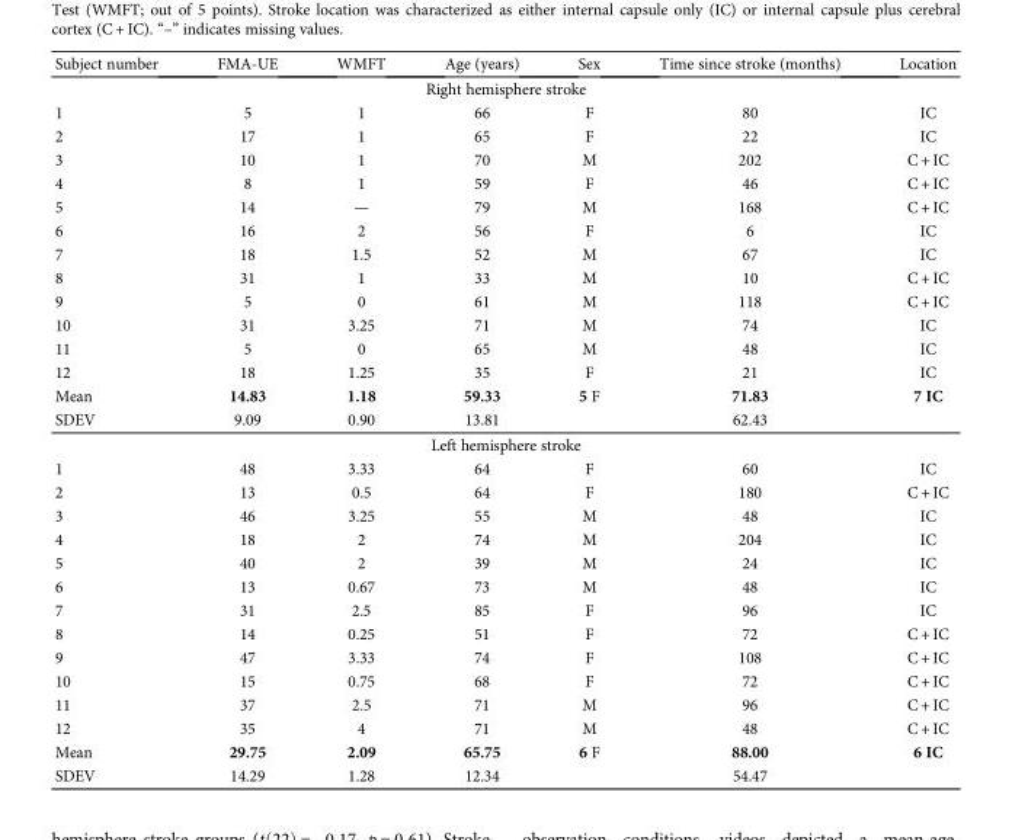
<table><thead><tr><td>Subject number</td><td>FMA-UE</td><td>WMFT</td><td>Age (years)</td><td>Sex</td><td>Time since stroke (months)</td><td>Location</td></tr></thead><tbody><tr><td colspan="7">Right hemisphere stroke</td></tr><tr><td>1</td><td>5</td><td>1</td><td>66</td><td>F</td><td>80</td><td>IC</td></tr><tr><td>2</td><td>17</td><td>1</td><td>65</td><td>F</td><td>22</td><td>IC</td></tr><tr><td>3</td><td>10</td><td>1</td><td>70</td><td>M</td><td>202</td><td>C + IC</td></tr><tr><td>4</td><td>8</td><td>1</td><td>59</td><td>F</td><td>46</td><td>C + IC</td></tr><tr><td>5</td><td>14</td><td>—</td><td>79</td><td>M</td><td>168</td><td>C + IC</td></tr><tr><td>6</td><td>16</td><td>2</td><td>56</td><td>F</td><td>6</td><td>IC</td></tr><tr><td>7</td><td>18</td><td>1.5</td><td>52</td><td>M</td><td>67</td><td>IC</td></tr><tr><td>8</td><td>31</td><td>1</td><td>33</td><td>M</td><td>10</td><td>C + IC</td></tr><tr><td>9</td><td>5</td><td>0</td><td>61</td><td>M</td><td>118</td><td>C + IC</td></tr><tr><td>10</td><td>31</td><td>3.25</td><td>71</td><td>M</td><td>74</td><td>IC</td></tr><tr><td>11</td><td>5</td><td>0</td><td>65</td><td>M</td><td>48</td><td>IC</td></tr><tr><td>12</td><td>18</td><td>1.25</td><td>35</td><td>F</td><td>21</td><td>IC</td></tr><tr><td>Mean</td><td>14.83</td><td>1.18</td><td>59.33</td><td>5 F</td><td>71.83</td><td>7 IC</td></tr><tr><td>SDEV</td><td>9.09</td><td>0.90</td><td>13.81</td><td></td><td>62.43</td><td></td></tr><tr><td colspan="7">Left hemisphere stroke</td></tr><tr><td>1</td><td>48</td><td>3.33</td><td>64</td><td>F</td><td>60</td><td>IC</td></tr><tr><td>2</td><td>13</td><td>0.5</td><td>64</td><td>F</td><td>180</td><td>C + IC</td></tr><tr><td>3</td><td>46</td><td>3.25</td><td>55</td><td>M</td><td>48</td><td>IC</td></tr><tr><td>4</td><td>18</td><td>2</td><td>74</td><td>M</td><td>204</td><td>IC</td></tr><tr><td>5</td><td>40</td><td>2</td><td>39</td><td>M</td><td>24</td><td>IC</td></tr><tr><td>6</td><td>13</td><td>0.67</td><td>73</td><td>M</td><td>48</td><td>IC</td></tr><tr><td>7</td><td>31</td><td>2.5</td><td>85</td><td>F</td><td>96</td><td>IC</td></tr><tr><td>8</td><td>14</td><td>0.25</td><td>51</td><td>F</td><td>72</td><td>C + IC</td></tr><tr><td>9</td><td>47</td><td>3.33</td><td>74</td><td>F</td><td>108</td><td>C + IC</td></tr><tr><td>10</td><td>15</td><td>0.75</td><td>68</td><td>F</td><td>72</td><td>C + IC</td></tr><tr><td>11</td><td>37</td><td>2.5</td><td>71</td><td>M</td><td>96</td><td>C + IC</td></tr><tr><td>12</td><td>35</td><td>4</td><td>71</td><td>M</td><td>48</td><td>C + IC</td></tr><tr><td>Mean</td><td>29.75</td><td>2.09</td><td>65.75</td><td>6 F</td><td>88.00</td><td>6 IC</td></tr><tr><td>SDEV</td><td>14.29</td><td>1.28</td><td>12.34</td><td></td><td>54.47</td><td></td></tr></tbody></table>